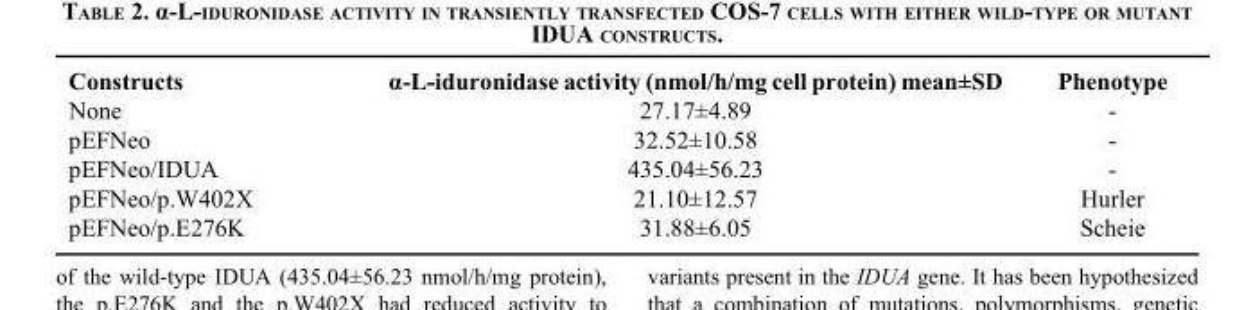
<table><thead><tr><td>Constructs</td><td>α-L-iduronidase activity (nmol/h/mg cell protein) mean±SD</td><td>Phenotype</td></tr></thead><tbody><tr><td>None</td><td>27.17±4.89</td><td>-</td></tr><tr><td>pEFNeo</td><td>32.52±10.58</td><td>-</td></tr><tr><td>pEFNeo/IDUA</td><td>435.04±56.23</td><td>-</td></tr><tr><td>pEFNeo/p.W402X</td><td>21.10±12.57</td><td>Hurler</td></tr><tr><td>pEFNeo/p.E276K</td><td>31.88±6.05</td><td>Scheie</td></tr></tbody></table>